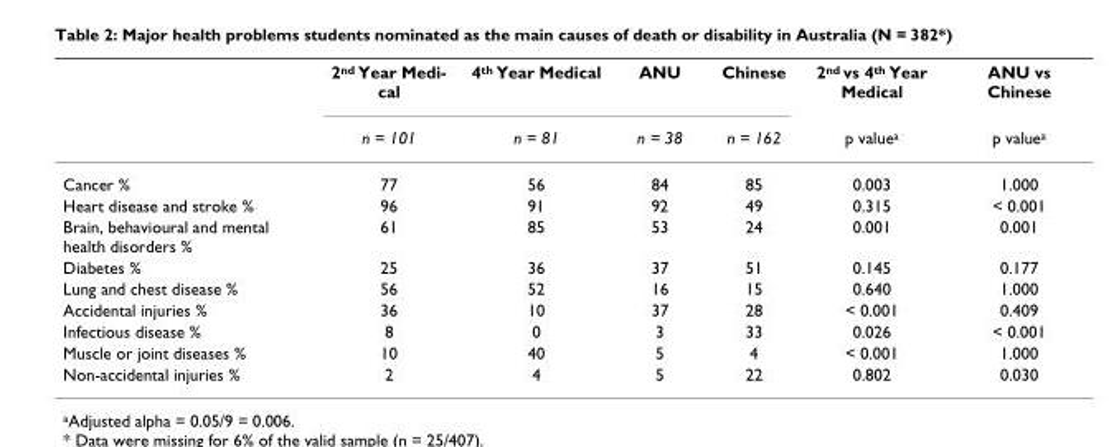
<table><thead><tr><td rowspan="2"></td><td rowspan="2">2nd Year Medi- cal n = 101</td><td rowspan="2">4<sup>th</sup> Year Medical n = 81</td><td rowspan="2">ANU n = 38</td><td rowspan="2">Chinese n = 162</td><td rowspan="2">2<sup>nd</sup> vs 4<sup>th</sup> Year Medical p value<sup>a</sup></td><td rowspan="2">ANU vs Chinese p value<sup>a</sup></td></tr><tr></tr></thead><tbody><tr><td>Cancer %</td><td>77</td><td>56</td><td>84</td><td>85</td><td>0.003</td><td>1.000</td></tr><tr><td>Heart disease and stroke %</td><td>96</td><td>91</td><td>92</td><td>49</td><td>0.315</td><td>&lt; 0.001</td></tr><tr><td>Brain, behavioural and mental health disorders %</td><td>61</td><td>85</td><td>53</td><td>24</td><td>0.001</td><td>0.001</td></tr><tr><td>Diabetes %</td><td>25</td><td>36</td><td>37</td><td>51</td><td>0.145</td><td>0.177</td></tr><tr><td>Lung and chest disease %</td><td>56</td><td>52</td><td>16</td><td>15</td><td>0.640</td><td>1.000</td></tr><tr><td>Accidental injuries %</td><td>36</td><td>10</td><td>37</td><td>28</td><td>&lt; 0.001</td><td>0.409</td></tr><tr><td>Infectious disease %</td><td>8</td><td>0</td><td>3</td><td>33</td><td>0.026</td><td>&lt; 0.001</td></tr><tr><td>Muscle or joint diseases %</td><td>10</td><td>40</td><td>5</td><td>4</td><td>&lt; 0.001</td><td>1.000</td></tr><tr><td>Non-accidental injuries %</td><td>2</td><td>4</td><td>5</td><td>22</td><td>0.802</td><td>0.030</td></tr></tbody></table>